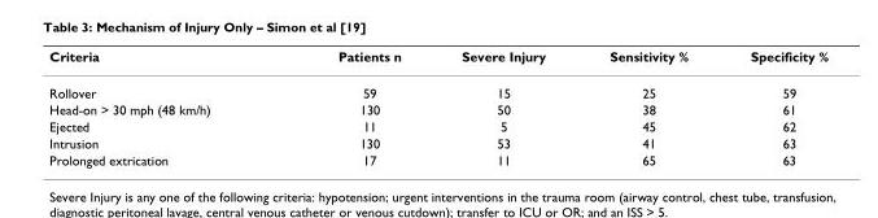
<table><thead><tr><td>Criteria</td><td>Patients n</td><td>Severe Injury</td><td>Sensitivity %</td><td>Specificity %</td></tr></thead><tbody><tr><td>Rollover</td><td>59</td><td>15</td><td>25</td><td>59</td></tr><tr><td>Head-on &gt; 30 mph (48 km/h)</td><td>130</td><td>50</td><td>38</td><td>61</td></tr><tr><td>Ejected</td><td>11</td><td>5</td><td>45</td><td>62</td></tr><tr><td>Intrusion</td><td>130</td><td>53</td><td>41</td><td>63</td></tr><tr><td>Prolonged extrication</td><td>17</td><td>11</td><td>65</td><td>63</td></tr></tbody></table>